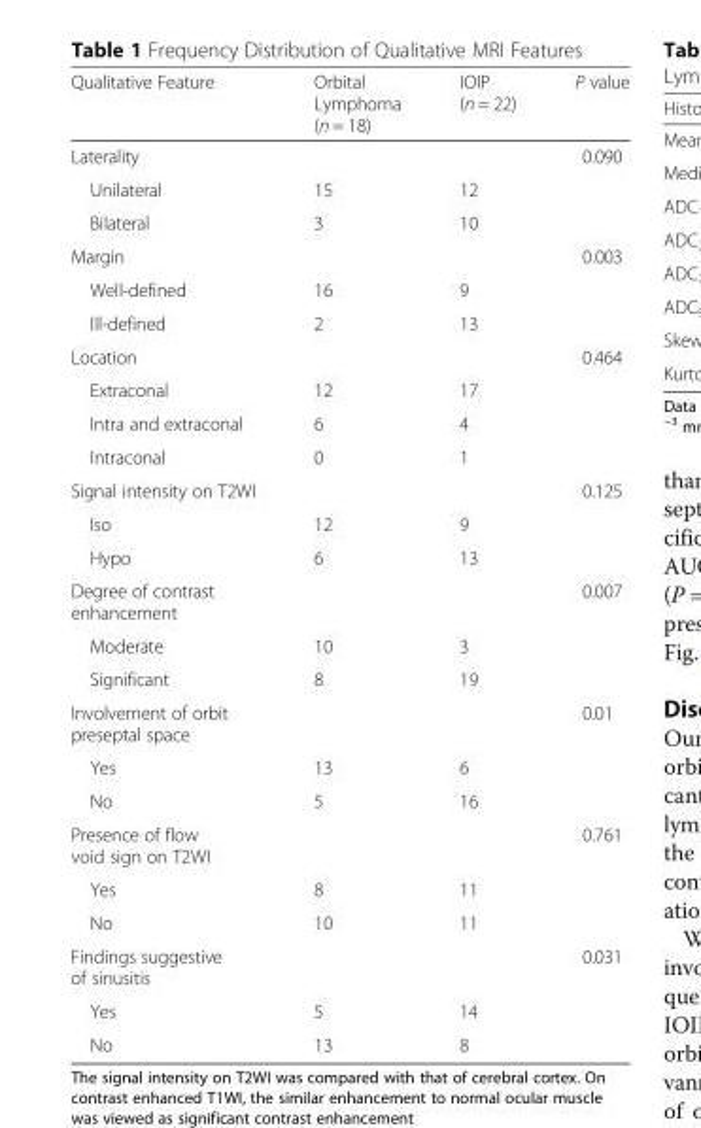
<table><thead><tr><td>Qualitative Feature</td><td>Orbital Lymphoma (n = 18)</td><td>IOIP (n = 22)</td><td>P value</td></tr></thead><tbody><tr><td>Laterality</td><td></td><td></td><td>0.090</td></tr><tr><td>Unilateral</td><td>15</td><td>12</td><td></td></tr><tr><td>Bilateral</td><td>3</td><td>10</td><td></td></tr><tr><td>Margin</td><td></td><td></td><td>0.003</td></tr><tr><td>Well-defined</td><td>16</td><td>9</td><td></td></tr><tr><td>Ill-defined</td><td>2</td><td>13</td><td></td></tr><tr><td>Location</td><td></td><td></td><td>0.464</td></tr><tr><td>Extraconal</td><td>12</td><td>17</td><td></td></tr><tr><td>Intra and extraconal</td><td>6</td><td>4</td><td></td></tr><tr><td>Intraconal</td><td>0</td><td>1</td><td></td></tr><tr><td>Signal intensity on T2WI</td><td></td><td></td><td>0.125</td></tr><tr><td>Iso</td><td>12</td><td>9</td><td></td></tr><tr><td>Hypo</td><td>6</td><td>13</td><td></td></tr><tr><td>Degree of contrast enhancement</td><td></td><td></td><td>0.007</td></tr><tr><td>Moderate</td><td>10</td><td>3</td><td></td></tr><tr><td>Significant</td><td>8</td><td>19</td><td></td></tr><tr><td>Involvement of orbit preseptal space</td><td></td><td></td><td>0.01</td></tr><tr><td>Yes</td><td>13</td><td>6</td><td></td></tr><tr><td>No</td><td>5</td><td>16</td><td></td></tr><tr><td>Presence of flow void sign on T2WI</td><td></td><td></td><td>0.761</td></tr><tr><td>Yes</td><td>8</td><td>11</td><td></td></tr><tr><td>No</td><td>10</td><td>11</td><td></td></tr><tr><td>Findings suggestive of sinusitis</td><td></td><td></td><td>0.031</td></tr><tr><td>Yes</td><td>5</td><td>14</td><td></td></tr><tr><td>No</td><td>13</td><td>8</td><td></td></tr></tbody></table>